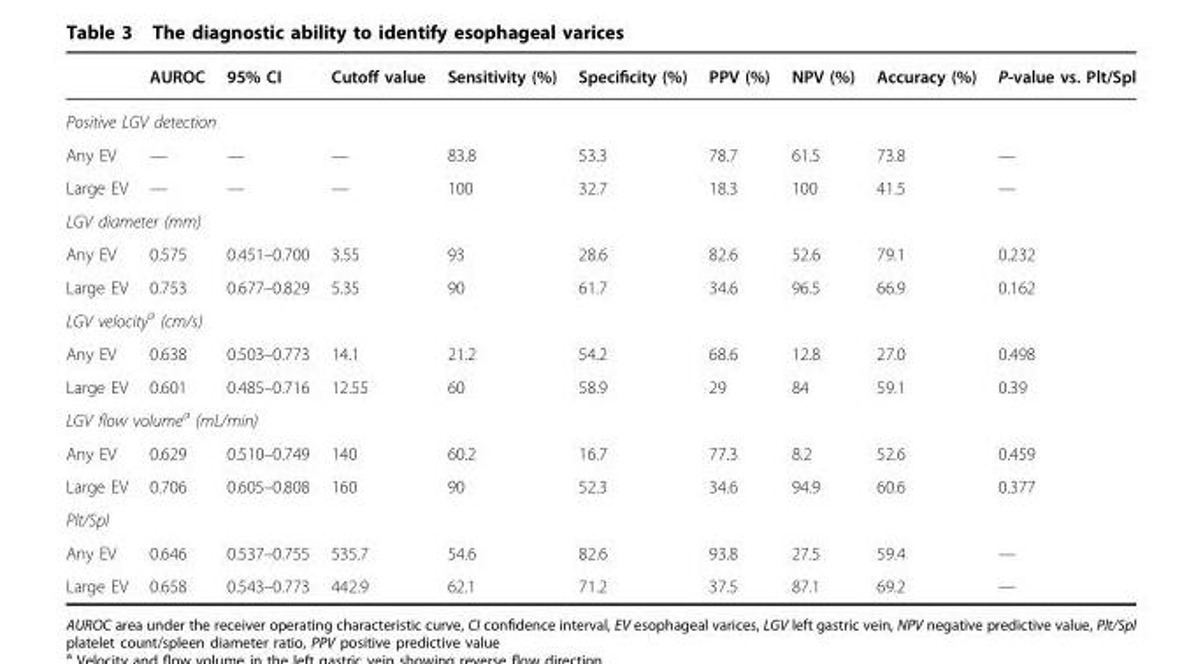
<table><thead><tr><td></td><td>AUROC</td><td>95% CI</td><td>Cutoff value</td><td>Sensitivity (%)</td><td>Specificity (%)</td><td>PPV (%)</td><td>NPV (%)</td><td>Accuracy (%)</td><td>P-value vs. Plt/Spl</td></tr></thead><tbody><tr><td colspan="10">Positive LGV detection</td></tr><tr><td>Any EV</td><td>—</td><td>—</td><td>—</td><td>83.8</td><td>53.3</td><td>78.7</td><td>61.5</td><td>73.8</td><td>—</td></tr><tr><td>Large EV</td><td>—</td><td>—</td><td>—</td><td>100</td><td>32.7</td><td>18.3</td><td>100</td><td>41.5</td><td>—</td></tr><tr><td colspan="10">LGV diameter (mm)</td></tr><tr><td>Any EV</td><td>0.575</td><td>0.451–0.700</td><td>3.55</td><td>93</td><td>28.6</td><td>82.6</td><td>52.6</td><td>79.1</td><td>0.232</td></tr><tr><td>Large EV</td><td>0.753</td><td>0.677–0.829</td><td>5.35</td><td>90</td><td>61.7</td><td>34.6</td><td>96.5</td><td>66.9</td><td>0.162</td></tr><tr><td colspan="10">LGV velocity<sup>a</sup> (cm/s)</td></tr><tr><td>Any EV</td><td>0.638</td><td>0.503–0.773</td><td>14.1</td><td>21.2</td><td>54.2</td><td>68.6</td><td>12.8</td><td>27.0</td><td>0.498</td></tr><tr><td>Large EV</td><td>0.601</td><td>0.485–0.716</td><td>12.55</td><td>60</td><td>58.9</td><td>29</td><td>84</td><td>59.1</td><td>0.39</td></tr><tr><td colspan="10">LGV flow volume<sup>a</sup> (mL/min)</td></tr><tr><td>Any EV</td><td>0.629</td><td>0.510–0.749</td><td>140</td><td>60.2</td><td>16.7</td><td>77.3</td><td>8.2</td><td>52.6</td><td>0.459</td></tr><tr><td>Large EV</td><td>0.706</td><td>0.605–0.808</td><td>160</td><td>90</td><td>52.3</td><td>34.6</td><td>94.9</td><td>60.6</td><td>0.377</td></tr><tr><td colspan="10">Plt/Spl</td></tr><tr><td>Any EV</td><td>0.646</td><td>0.537–0.755</td><td>535.7</td><td>54.6</td><td>82.6</td><td>93.8</td><td>27.5</td><td>59.4</td><td>—</td></tr><tr><td>Large EV</td><td>0.658</td><td>0.543–0.773</td><td>442.9</td><td>62.1</td><td>71.2</td><td>37.5</td><td>87.1</td><td>69.2</td><td>—</td></tr></tbody></table>